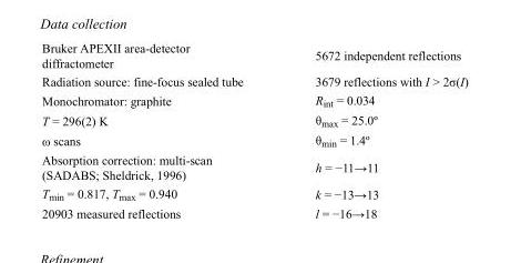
<table><tbody><tr><td>Bruker APEXII area-detector diffractometer</td><td>5672 independent reflections</td></tr><tr><td>Radiation source: fine-focus sealed tube</td><td>3679 reflections with I &gt; 2σ(I)</td></tr><tr><td>Monochromator: graphite</td><td>R<sub>int</sub> = 0.034</td></tr><tr><td>T = 296(2) K</td><td>θ<sub>max</sub> = 25.0º</td></tr><tr><td>ω scans</td><td>θ<sub>min</sub> = 1.4º</td></tr><tr><td>Absorption correction: multi-scan (SADABS; Sheldrick, 1996)</td><td>h = −11→11</td></tr><tr><td>T<sub>min</sub> = 0.817, T<sub>max</sub> = 0.940</td><td>k = −13→13</td></tr><tr><td>20903 measured reflections</td><td>l = −16→18</td></tr></tbody></table>